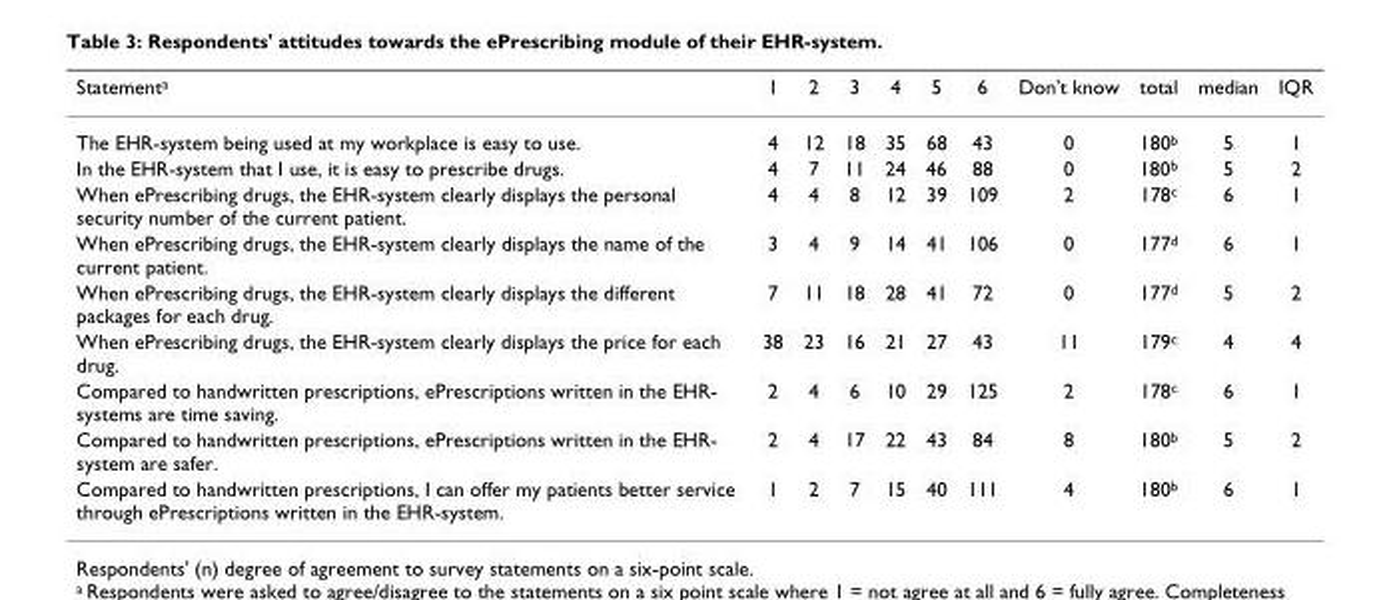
<table><thead><tr><td>Statement<sup>a</sup></td><td>1</td><td>2</td><td>3</td><td>4</td><td>5</td><td>6</td><td>Don&#x27;t know</td><td>total</td><td>median</td><td>IQR</td></tr></thead><tbody><tr><td>The EHR-system being used at my workplace is easy to use.</td><td>4</td><td>12</td><td>18</td><td>35</td><td>68</td><td>43</td><td>0</td><td>180<sup>b</sup></td><td>5</td><td>1</td></tr><tr><td>In the EHR-system that I use, it is easy to prescribe drugs.</td><td>4</td><td>7</td><td>11</td><td>24</td><td>46</td><td>88</td><td>0</td><td>180<sup>b</sup></td><td>5</td><td>2</td></tr><tr><td>When ePrescribing drugs, the EHR-system clearly displays the personal security number of the current patient.</td><td>4</td><td>4</td><td>8</td><td>12</td><td>39</td><td>109</td><td>2</td><td>178<sup>c</sup></td><td>6</td><td>1</td></tr><tr><td>When ePrescribing drugs, the EHR-system clearly displays the name of the current patient.</td><td>3</td><td>4</td><td>9</td><td>14</td><td>41</td><td>106</td><td>0</td><td>177<sup>d</sup></td><td>6</td><td>1</td></tr><tr><td>When ePrescribing drugs, the EHR-system clearly displays the different packages for each drug.</td><td>7</td><td>11</td><td>18</td><td>28</td><td>41</td><td>72</td><td>0</td><td>177<sup>d</sup></td><td>5</td><td>2</td></tr><tr><td>When ePrescribing drugs, the EHR-system clearly displays the price for each drug.</td><td>38</td><td>23</td><td>16</td><td>21</td><td>27</td><td>43</td><td>11</td><td>179<sup>c</sup></td><td>4</td><td>4</td></tr><tr><td>Compared to handwritten prescriptions, ePrescriptions written in the EHR- systems are time saving.</td><td>2</td><td>4</td><td>6</td><td>10</td><td>29</td><td>125</td><td>2</td><td>178<sup>c</sup></td><td>6</td><td>1</td></tr><tr><td>Compared to handwritten prescriptions, ePrescriptions written in the EHR- system are safer.</td><td>2</td><td>4</td><td>17</td><td>22</td><td>43</td><td>84</td><td>8</td><td>180<sup>b</sup></td><td>5</td><td>2</td></tr><tr><td>Compared to handwritten prescriptions, I can offer my patients better service through ePrescriptions written in the EHR-system.</td><td>1</td><td>2</td><td>7</td><td>15</td><td>40</td><td>111</td><td>4</td><td>180<sup>b</sup></td><td>6</td><td>1</td></tr></tbody></table>